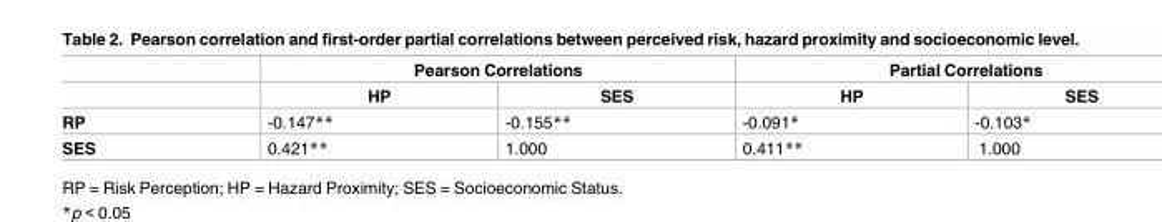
<table><thead><tr><td rowspan="2"></td><td colspan="2">Pearson Correlations</td><td colspan="2">Partial Correlations</td></tr><tr><td>HP</td><td>SES</td><td>HP</td><td>SES</td></tr></thead><tbody><tr><td>RP</td><td>-0.147**</td><td>-0.155**</td><td>-0.091*</td><td>-0.103*</td></tr><tr><td>SES</td><td>0.421**</td><td>1.000</td><td>0.411**</td><td>1.000</td></tr></tbody></table>